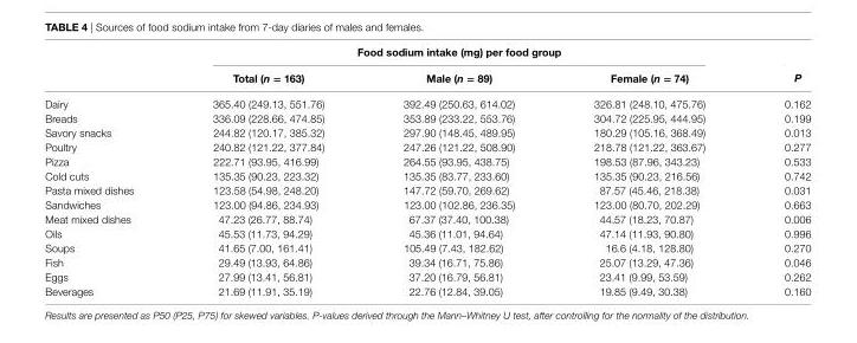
<table><thead><tr><td rowspan="2"></td><td colspan="3">Food sodium intake (mg) per food group</td><td rowspan="2">P</td></tr><tr><td>Total (n = 163)</td><td>Male (n = 89)</td><td>Female (n = 74)</td></tr></thead><tbody><tr><td>Dairy</td><td>365.40 (249.13, 551.76)</td><td>392.49 (250.63, 614.02)</td><td>326.81 (248.10, 475.76)</td><td>0.162</td></tr><tr><td>Breads</td><td>336.09 (228.66, 474.85)</td><td>353.89 (233.22, 553.76)</td><td>304.72 (225.95, 444.95)</td><td>0.199</td></tr><tr><td>Savory snacks</td><td>244.82 (120.17, 385.32)</td><td>297.90 (148.45, 489.95)</td><td>180.29 (105.16, 368.49)</td><td>0.013</td></tr><tr><td>Poultry</td><td>240.82 (121.22, 377.84)</td><td>247.26 (121.22, 508.90)</td><td>218.78 (121.22, 363.67)</td><td>0.277</td></tr><tr><td>Pizza</td><td>222.71 (93.95, 416.99)</td><td>264.55 (93.95, 438.75)</td><td>198.53 (87.96, 343.23)</td><td>0.533</td></tr><tr><td>Cold cuts</td><td>135.35 (90.23, 223.32)</td><td>135.35 (83.77, 233.60)</td><td>135.35 (90.23, 216.56)</td><td>0.742</td></tr><tr><td>Pasta mixed dishes</td><td>123.58 (54.98, 248.20)</td><td>147.72 (59.70, 269.62)</td><td>87.57 (45.46, 218.38)</td><td>0.031</td></tr><tr><td>Sandwiches</td><td>123.00 (94.86, 234.93)</td><td>123.00 (102.86, 236.35)</td><td>123.00 (80.70, 202.29)</td><td>0.663</td></tr><tr><td>Meat mixed dishes</td><td>47.23 (26.77, 88.74)</td><td>67.37 (37.40, 100.38)</td><td>44.57 (18.23, 70.87)</td><td>0.006</td></tr><tr><td>Oils</td><td>45.53 (11.73, 94.29)</td><td>45.36 (11.01, 94.64)</td><td>47.14 (11.93, 90.80)</td><td>0.996</td></tr><tr><td>Soups</td><td>41.65 (7.00, 161.41)</td><td>105.49 (7.43, 182.62)</td><td>16.6 (4.18, 128.80)</td><td>0.270</td></tr><tr><td>Fish</td><td>29.49 (13.93, 64.86)</td><td>39.34 (16.71, 75.86)</td><td>25.07 (13.29, 47.36)</td><td>0.046</td></tr><tr><td>Eggs</td><td>27.99 (13.41, 56.81)</td><td>37.20 (16.79, 56.81)</td><td>23.41 (9.99, 53.59)</td><td>0.262</td></tr><tr><td>Beverages</td><td>21.69 (11.91, 35.19)</td><td>22.76 (12.84, 39.05)</td><td>19.85 (9.49, 30.38)</td><td>0.160</td></tr></tbody></table>